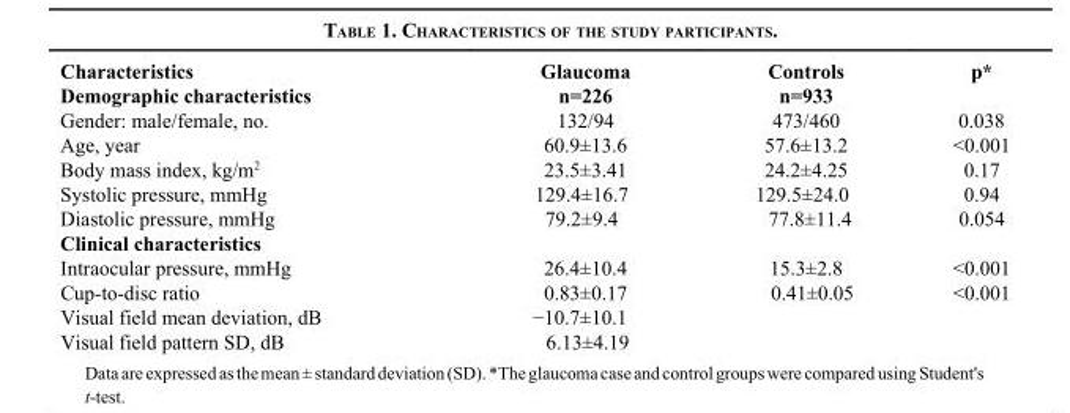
<table><thead><tr><td rowspan="2">Characteristics Demographic characteristics</td><td rowspan="2">Glaucoma n=226</td><td rowspan="2">Controls n=933</td><td rowspan="2">p*</td></tr><tr></tr></thead><tbody><tr><td>Gender: male/female, no.</td><td>132/94</td><td>473/460</td><td>0.038</td></tr><tr><td>Age, year</td><td>60.9±13.6</td><td>57.6±13.2</td><td>&lt;0.001</td></tr><tr><td>Body mass index, kg/m<sup>2</sup></td><td>23.5±3.41</td><td>24.2±4.25</td><td>0.17</td></tr><tr><td>Systolic pressure, mmHg</td><td>129.4±16.7</td><td>129.5±24.0</td><td>0.94</td></tr><tr><td>Diastolic pressure, mmHg</td><td>79.2±9.4</td><td>77.8±11.4</td><td>0.054</td></tr><tr><td colspan="4">Clinical characteristics</td></tr><tr><td>Intraocular pressure, mmHg</td><td>26.4±10.4</td><td>15.3±2.8</td><td>&lt;0.001</td></tr><tr><td>Cup-to-disc ratio</td><td>0.83±0.17</td><td>0.41±0.05</td><td>&lt;0.001</td></tr><tr><td>Visual field mean deviation, dB</td><td>−10.7±10.1</td><td></td><td></td></tr><tr><td>Visual field pattern SD, dB</td><td>6.13±4.19</td><td></td><td></td></tr></tbody></table>